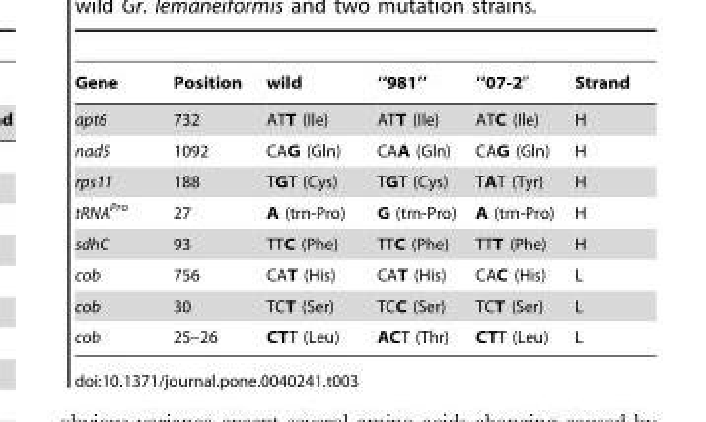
<table><thead><tr><td>Gene</td><td>Position</td><td>wild</td><td>‘‘981’’</td><td>‘‘07-20</td><td>Strand</td></tr></thead><tbody><tr><td>apt6</td><td>732</td><td>ATT (Ile)</td><td>ATT (Ile)</td><td>ATC (Ile)</td><td>H</td></tr><tr><td>nad5</td><td>1092</td><td>CAG (Gln)</td><td>CAA (Gln)</td><td>CAG (Gln)</td><td>H</td></tr><tr><td>rps11</td><td>188</td><td>TGT (Cys)</td><td>TGT (Cys)</td><td>TAT (Tyr)</td><td>H</td></tr><tr><td>tRNA<sup>Pro</sup></td><td>27</td><td>A (trn-Pro)</td><td>G (trn-Pro)</td><td>A (trn-Pro)</td><td>H</td></tr><tr><td>sdhC</td><td>93</td><td>TTC (Phe)</td><td>TTC (Phe)</td><td>TTT (Phe)</td><td>H</td></tr><tr><td>cob</td><td>756</td><td>CAT (His)</td><td>CAT (His)</td><td>CAC (His)</td><td>L</td></tr><tr><td>cob</td><td>30</td><td>TCT (Ser)</td><td>TCC (Ser)</td><td>TCT (Ser)</td><td>L</td></tr><tr><td>cob</td><td>25–26</td><td>CTT (Leu)</td><td>ACT (Thr)</td><td>CTT (Leu)</td><td>L</td></tr></tbody></table>